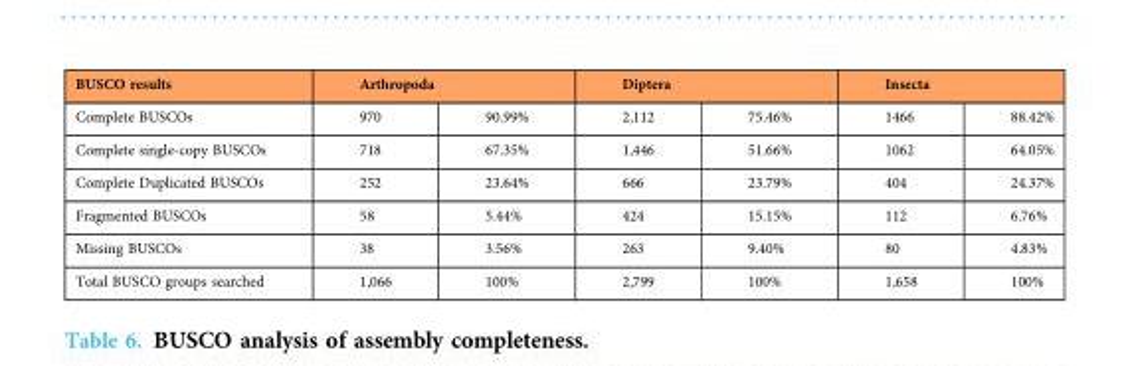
<table><thead><tr><td rowspan="2">BUSCO results Complete BUSCOs</td><td colspan="2">Arthropoda</td><td colspan="2">Diptera</td><td colspan="2">Insecta</td></tr><tr><td>970</td><td>90.99%</td><td>2,112</td><td>75.46%</td><td>1466</td><td>88.42%</td></tr></thead><tbody><tr><td>Complete single-copy BUSCOs</td><td>718</td><td>67.35%</td><td>1,446</td><td>51.66%</td><td>1062</td><td>64.05%</td></tr><tr><td>Complete Duplicated BUSCOs</td><td>252</td><td>23.64%</td><td>666</td><td>23.79%</td><td>404</td><td>24.37%</td></tr><tr><td>Fragmented BUSCOs</td><td>58</td><td>5.44%</td><td>424</td><td>15.15%</td><td>112</td><td>6.76%</td></tr><tr><td>Missing BUSCOs</td><td>38</td><td>3.56%</td><td>263</td><td>9.40%</td><td>80</td><td>4.83%</td></tr><tr><td>Total BUSCO groups searched</td><td>1,066</td><td>100%</td><td>2,799</td><td>100%</td><td>1,658</td><td>100%</td></tr></tbody></table>